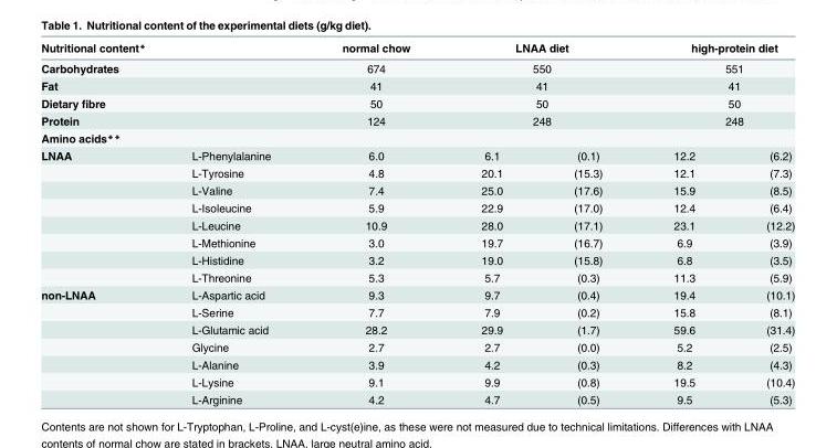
<table><thead><tr><td colspan="2">Nutritional content*</td><td>normal chow</td><td colspan="2">LNAA diet</td><td colspan="2">high-protein diet</td></tr></thead><tbody><tr><td>Carbohydrates</td><td></td><td>674</td><td colspan="2">550</td><td colspan="2">551</td></tr><tr><td>Fat</td><td></td><td>41</td><td colspan="2">41</td><td colspan="2">41</td></tr><tr><td>Dietary fibre</td><td></td><td>50</td><td colspan="2">50</td><td colspan="2">50</td></tr><tr><td>Protein</td><td></td><td>124</td><td colspan="2">248</td><td colspan="2">248</td></tr><tr><td colspan="7">Amino acids**</td></tr><tr><td rowspan="8">LNAA</td><td>L-Phenylalanine</td><td>6.0</td><td>6.1</td><td>(0.1)</td><td>12.2</td><td>(6.2)</td></tr><tr><td>L-Tyrosine</td><td>4.8</td><td>20.1</td><td>(15.3)</td><td>12.1</td><td>(7.3)</td></tr><tr><td>L-Valine</td><td>7.4</td><td>25.0</td><td>(17.6)</td><td>15.9</td><td>(8.5)</td></tr><tr><td>L-Isoleucine</td><td>5.9</td><td>22.9</td><td>(17.0)</td><td>12.4</td><td>(6.4)</td></tr><tr><td>L-Leucine</td><td>10.9</td><td>28.0</td><td>(17.1)</td><td>23.1</td><td>(12.2)</td></tr><tr><td>L-Methionine</td><td>3.0</td><td>19.7</td><td>(16.7)</td><td>6.9</td><td>(3.9)</td></tr><tr><td>L-Histidine</td><td>3.2</td><td>19.0</td><td>(15.8)</td><td>6.8</td><td>(3.5)</td></tr><tr><td>L-Threonine</td><td>5.3</td><td>5.7</td><td>(0.3)</td><td>11.3</td><td>(5.9)</td></tr><tr><td rowspan="7">non-LNAA</td><td>L-Aspartic acid</td><td>9.3</td><td>9.7</td><td>(0.4)</td><td>19.4</td><td>(10.1)</td></tr><tr><td>L-Serine</td><td>7.7</td><td>7.9</td><td>(0.2)</td><td>15.8</td><td>(8.1)</td></tr><tr><td>L-Glutamic acid</td><td>28.2</td><td>29.9</td><td>(1.7)</td><td>59.6</td><td>(31.4)</td></tr><tr><td>Glycine</td><td>2.7</td><td>2.7</td><td>(0.0)</td><td>5.2</td><td>(2.5)</td></tr><tr><td>L-Alanine</td><td>3.9</td><td>4.2</td><td>(0.3)</td><td>8.2</td><td>(4.3)</td></tr><tr><td>L-Lysine</td><td>9.1</td><td>9.9</td><td>(0.8)</td><td>19.5</td><td>(10.4)</td></tr><tr><td>L-Arginine</td><td>4.2</td><td>4.7</td><td>(0.5)</td><td>9.5</td><td>(5.3)</td></tr></tbody></table>